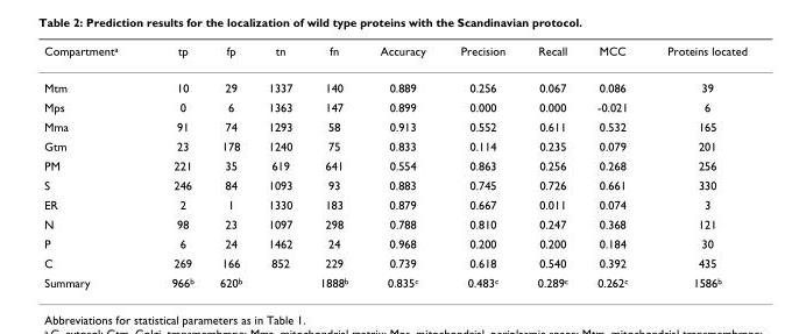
<table><thead><tr><td>Compartment<sup>a</sup></td><td>tp</td><td>fp</td><td>tn</td><td>fn</td><td>Accuracy</td><td>Precision</td><td>Recall</td><td>MCC</td><td>Proteins located</td></tr></thead><tbody><tr><td>Mtm</td><td>10</td><td>29</td><td>1337</td><td>140</td><td>0.889</td><td>0.256</td><td>0.067</td><td>0.086</td><td>39</td></tr><tr><td>Mps</td><td>0</td><td>6</td><td>1363</td><td>147</td><td>0.899</td><td>0.000</td><td>0.000</td><td>-0.021</td><td>6</td></tr><tr><td>Mma</td><td>91</td><td>74</td><td>1293</td><td>58</td><td>0.913</td><td>0.552</td><td>0.611</td><td>0.532</td><td>165</td></tr><tr><td>Gtm</td><td>23</td><td>178</td><td>1240</td><td>75</td><td>0.833</td><td>0.114</td><td>0.235</td><td>0.079</td><td>201</td></tr><tr><td>PM</td><td>221</td><td>35</td><td>619</td><td>641</td><td>0.554</td><td>0.863</td><td>0.256</td><td>0.268</td><td>256</td></tr><tr><td>S</td><td>246</td><td>84</td><td>1093</td><td>93</td><td>0.883</td><td>0.745</td><td>0.726</td><td>0.661</td><td>330</td></tr><tr><td>ER</td><td>2</td><td>1</td><td>1330</td><td>183</td><td>0.879</td><td>0.667</td><td>0.011</td><td>0.074</td><td>3</td></tr><tr><td>N</td><td>98</td><td>23</td><td>1097</td><td>298</td><td>0.788</td><td>0.810</td><td>0.247</td><td>0.368</td><td>121</td></tr><tr><td>P</td><td>6</td><td>24</td><td>1462</td><td>24</td><td>0.968</td><td>0.200</td><td>0.200</td><td>0.184</td><td>30</td></tr><tr><td>C</td><td>269</td><td>166</td><td>852</td><td>229</td><td>0.739</td><td>0.618</td><td>0.540</td><td>0.392</td><td>435</td></tr><tr><td>Summary</td><td>966<sup>b</sup></td><td>620<sup>b</sup></td><td></td><td>1888<sup>b</sup></td><td>0.835<sup>c</sup></td><td>0.483<sup>c</sup></td><td>0.289<sup>c</sup></td><td>0.262<sup>c</sup></td><td>1586<sup>b</sup></td></tr></tbody></table>